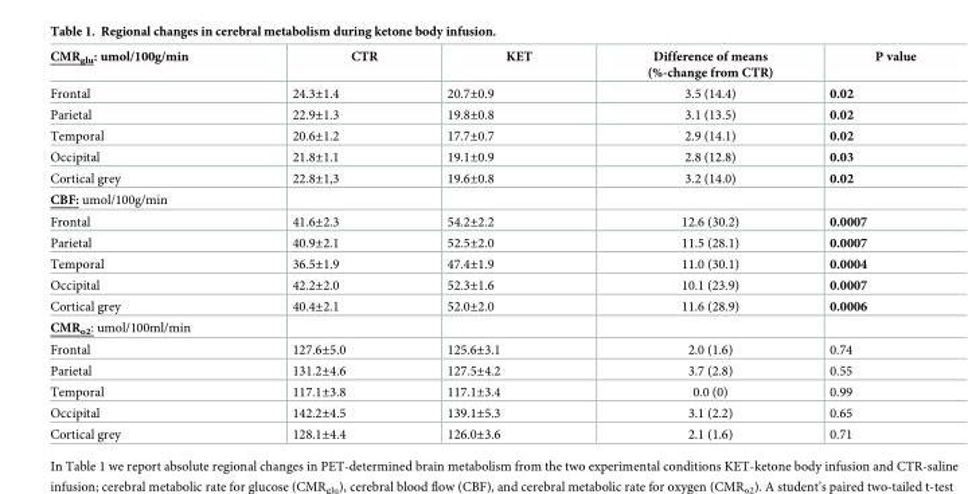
<table><thead><tr><td>CMR<sub>glu</sub>: umol/100g/min</td><td>CTR</td><td>KET</td><td>Difference of means (%-change from CTR)</td><td>P value</td></tr></thead><tbody><tr><td>Frontal</td><td>24.3±1.4</td><td>20.7±0.9</td><td>3.5 (14.4)</td><td>0.02</td></tr><tr><td>Parietal</td><td>22.9±1.3</td><td>19.8±0.8</td><td>3.1 (13.5)</td><td>0.02</td></tr><tr><td>Temporal</td><td>20.6±1.2</td><td>17.7±0.7</td><td>2.9 (14.1)</td><td>0.02</td></tr><tr><td>Occipital</td><td>21.8±1.1</td><td>19.1±0.9</td><td>2.8 (12.8)</td><td>0.03</td></tr><tr><td>Cortical grey</td><td>22.8±1,3</td><td>19.6±0.8</td><td>3.2 (14.0)</td><td>0.02</td></tr><tr><td colspan="5">CBF: umol/100g/min</td></tr><tr><td>Frontal</td><td>41.6±2.3</td><td>54.2±2.2</td><td>12.6 (30.2)</td><td>0.0007</td></tr><tr><td>Parietal</td><td>40.9±2.1</td><td>52.5±2.0</td><td>11.5 (28.1)</td><td>0.0007</td></tr><tr><td>Temporal</td><td>36.5±1.9</td><td>47.4±1.9</td><td>11.0 (30.1)</td><td>0.0004</td></tr><tr><td>Occipital</td><td>42.2±2.0</td><td>52.3±1.6</td><td>10.1 (23.9)</td><td>0.0007</td></tr><tr><td>Cortical grey</td><td>40.4±2.1</td><td>52.0±2.0</td><td>11.6 (28.9)</td><td>0.0006</td></tr><tr><td colspan="5">CMR<sub>o2</sub>: umol/100ml/min</td></tr><tr><td>Frontal</td><td>127.6±5.0</td><td>125.6±3.1</td><td>2.0 (1.6)</td><td>0.74</td></tr><tr><td>Parietal</td><td>131.2±4.6</td><td>127.5±4.2</td><td>3.7 (2.8)</td><td>0.55</td></tr><tr><td>Temporal</td><td>117.1±3.8</td><td>117.1±3.4</td><td>0.0 (0)</td><td>0.99</td></tr><tr><td>Occipital</td><td>142.2±4.5</td><td>139.1±5.3</td><td>3.1 (2.2)</td><td>0.65</td></tr><tr><td>Cortical grey</td><td>128.1±4.4</td><td>126.0±3.6</td><td>2.1 (1.6)</td><td>0.71</td></tr></tbody></table>